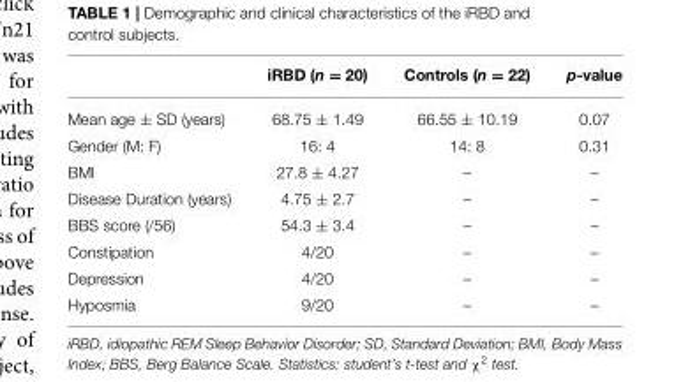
<table><thead><tr><td></td><td>iRBD (n = 20)</td><td>Controls (n = 22)</td><td>p-value</td></tr></thead><tbody><tr><td>Mean age ± SD (years)</td><td>68.75 ± 1.49</td><td>66.55 ± 10.19</td><td>0.07</td></tr><tr><td>Gender (M: F)</td><td>16: 4</td><td>14: 8</td><td>0.31</td></tr><tr><td>BMI</td><td>27.8 ± 4.27</td><td>–</td><td>–</td></tr><tr><td>Disease Duration (years)</td><td>4.75 ± 2.7</td><td>–</td><td>–</td></tr><tr><td>BBS score (/56)</td><td>54.3 ± 3.4</td><td>–</td><td>–</td></tr><tr><td>Constipation</td><td>4/20</td><td>–</td><td>–</td></tr><tr><td>Depression</td><td>4/20</td><td>–</td><td>–</td></tr><tr><td>Hyposmia</td><td>9/20</td><td>–</td><td>–</td></tr></tbody></table>